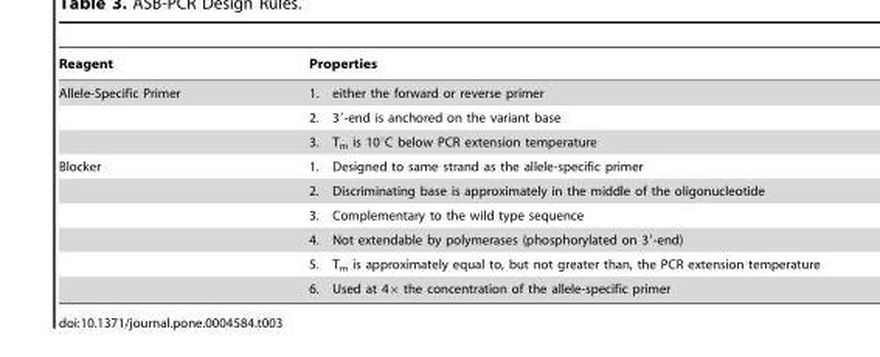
<table><thead><tr><td>Reagent</td><td>Properties</td></tr></thead><tbody><tr><td rowspan="3">Allele-Specific Primer</td><td>1. either the forward or reverse primer</td></tr><tr><td>2. 3′-end is anchored on the variant base</td></tr><tr><td>3. T<sub>m</sub> is 10°C below PCR extension temperature</td></tr><tr><td rowspan="6">Blocker</td><td>1. Designed to same strand as the allele-specific primer</td></tr><tr><td>2. Discriminating base is approximately in the middle of the oligonucleotide</td></tr><tr><td>3. Complementary to the wild type sequence</td></tr><tr><td>4. Not extendable by polymerases (phosphorylated on 3′-end)</td></tr><tr><td>5. T<sub>m</sub> is approximately equal to, but not greater than, the PCR extension temperature</td></tr><tr><td>6. Used at 4× the concentration of the allele-specific primer</td></tr></tbody></table>